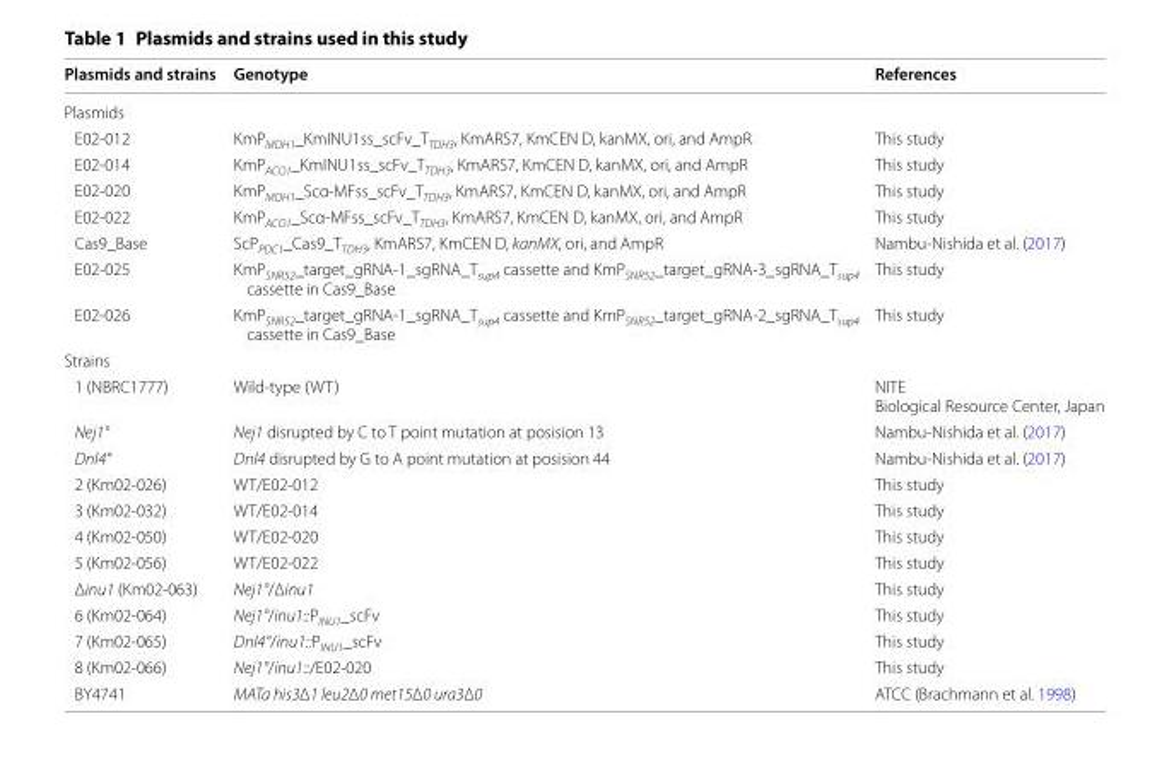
<table><thead><tr><td>Plasmids and strains</td><td>Genotype</td><td>References</td></tr></thead><tbody><tr><td colspan="3">Plasmids</td></tr><tr><td>E02‑012</td><td>KmPMDH1_KmINU1ss_scFv_TTDH3, KmARS7, KmCEN D, kanMX, ori, and AmpR</td><td>This study</td></tr><tr><td>E02‑014</td><td>KmPACO1_KmINU1ss_scFv_TTDH3, KmARS7, KmCEN D, kanMX, ori, and AmpR</td><td>This study</td></tr><tr><td>E02‑020</td><td>KmPMDH1_Scα‑MFss_scFv_TTDH3, KmARS7, KmCEN D, kanMX, ori, and AmpR</td><td>This study</td></tr><tr><td>E02‑022</td><td>KmPACO1_Scα‑MFss_scFv_TTDH3, KmARS7, KmCEN D, kanMX, ori, and AmpR</td><td>This study</td></tr><tr><td>Cas9_Base</td><td>ScPPDC1_Cas9_TTDH3, KmARS7, KmCEN D, kanMX, ori, and AmpR</td><td>Nambu‑Nishida et al. (2017)</td></tr><tr><td>E02‑025</td><td>KmPSNR52_target_gRNA‑1_sgRNA_Tsup4 cassette and KmPSNR52_target_gRNA‑3_sgRNA_Tsup4 cassette in Cas9_Base</td><td>This study</td></tr><tr><td>E02‑026</td><td>KmPSNR52_target_gRNA‑1_sgRNA_Tsup4 cassette and KmPSNR52_target_gRNA‑2_sgRNA_Tsup4 cassette in Cas9_Base</td><td>This study</td></tr><tr><td colspan="3">Strains</td></tr><tr><td>1 (NBRC1777)</td><td>Wild‑type (WT)</td><td>NITE Biological Resource Center, Japan</td></tr><tr><td>Nej1°</td><td>Nej1 disrupted by C to T point mutation at posision 13</td><td>Nambu‑Nishida et al. (2017)</td></tr><tr><td>Dnl4°</td><td>Dnl4 disrupted by G to A point mutation at posision 44</td><td>Nambu‑Nishida et al. (2017)</td></tr><tr><td>2 (Km02‑026)</td><td>WT/E02‑012</td><td>This study</td></tr><tr><td>3 (Km02‑032)</td><td>WT/E02‑014</td><td>This study</td></tr><tr><td>4 (Km02‑050)</td><td>WT/E02‑020</td><td>This study</td></tr><tr><td>5 (Km02‑056)</td><td>WT/E02‑022</td><td>This study</td></tr><tr><td>Δinu1 (Km02‑063)</td><td>Nej1°/Δinu1</td><td>This study</td></tr><tr><td>6 (Km02‑064)</td><td>Nej1°/inu1::PINU1_scFv</td><td>This study</td></tr><tr><td>7 (Km02‑065)</td><td>Dnl4°/inu1::PINU1_scFv</td><td>This study</td></tr><tr><td>8 (Km02‑066)</td><td>Nej1°/inu1::/E02‑020</td><td>This study</td></tr><tr><td>BY4741</td><td>MATa his3Δ1 leu2Δ0 met15Δ0 ura3Δ0</td><td>ATCC (Brachmann et al. 1998)</td></tr></tbody></table>